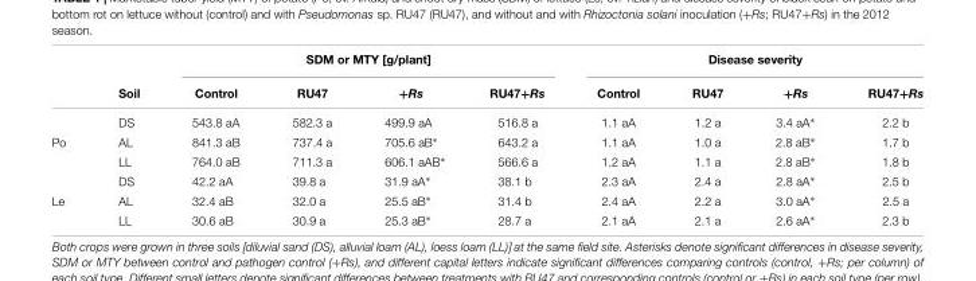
<table><thead><tr><td rowspan="2"></td><td rowspan="2">Soil</td><td colspan="4">SDM or MTY [g/plant]</td><td colspan="4">Disease severity</td></tr><tr><td>Control</td><td>RU47</td><td>+Rs</td><td>RU47+Rs</td><td>Control</td><td>RU47</td><td>+Rs</td><td>RU47+Rs</td></tr></thead><tbody><tr><td></td><td>DS</td><td>543.8 aA</td><td>582.3 a</td><td>499.9 aA</td><td>516.8 a</td><td>1.1 aA</td><td>1.2 a</td><td>3.4 aA∗</td><td>2.2 b</td></tr><tr><td rowspan="3">Po</td><td>AL</td><td>841.3 aB</td><td>737.4 a</td><td>705.6 aB∗</td><td>643.2 a</td><td>1.1 aA</td><td>1.0 a</td><td>2.8 aB∗</td><td>1.7 b</td></tr><tr><td>LL</td><td>764.0 aB</td><td>711.3 a</td><td>606.1 aAB∗</td><td>566.6 a</td><td>1.2 aA</td><td>1.1 a</td><td>2.8 aB∗</td><td>1.8 b</td></tr><tr><td>DS</td><td>42.2 aA</td><td>39.8 a</td><td>31.9 aA∗</td><td>38.1 b</td><td>2.3 aA</td><td>2.4 a</td><td>2.8 aA∗</td><td>2.5 b</td></tr><tr><td rowspan="2">Le</td><td>AL</td><td>32.4 aB</td><td>32.0 a</td><td>25.5 aB∗</td><td>31.4 b</td><td>2.4 aA</td><td>2.2 a</td><td>3.0 aA∗</td><td>2.5 a</td></tr><tr><td>LL</td><td>30.6 aB</td><td>30.9 a</td><td>25.3 aB∗</td><td>28.7 a</td><td>2.1 aA</td><td>2.1 a</td><td>2.6 aA∗</td><td>2.3 b</td></tr></tbody></table>